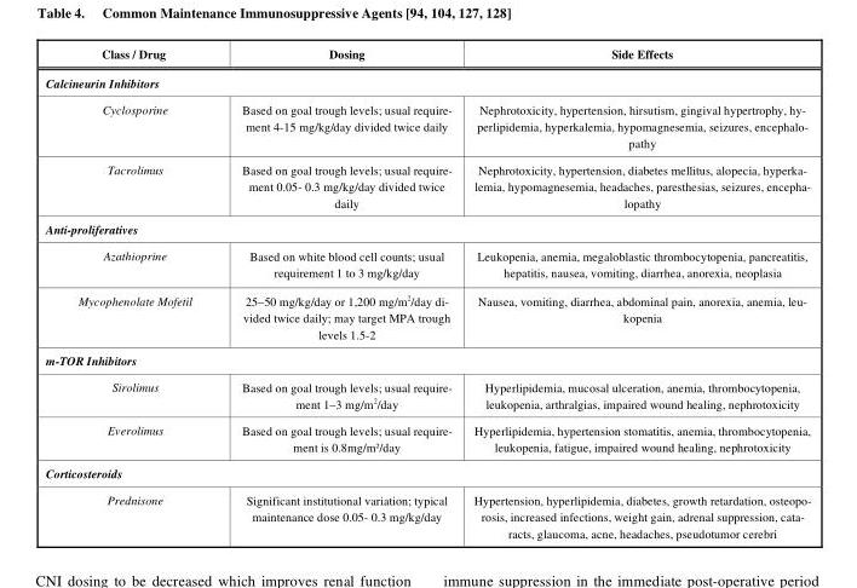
<table><thead><tr><td>Class / Drug</td><td>Dosing</td><td>Side Effects</td></tr></thead><tbody><tr><td colspan="3">Calcineurin Inhibitors</td></tr><tr><td>Cyclosporine</td><td>Based on goal trough levels; usual require- ment 4-15 mg/kg/day divided twice daily</td><td>Nephrotoxicity, hypertension, hirsutism, gingival hypertrophy, hy- perlipidemia, hyperkalemia, hypomagnesemia, seizures, encephalo- pathy</td></tr><tr><td>Tacrolimus</td><td>Based on goal trough levels; usual require- ment 0.05- 0.3 mg/kg/day divided twice daily</td><td>Nephrotoxicity, hypertension, diabetes mellitus, alopecia, hyperka- lemia, hypomagnesemia, headaches, paresthesias, seizures, encepha- lopathy</td></tr><tr><td colspan="3">Anti-proliferatives</td></tr><tr><td>Azathioprine</td><td>Based on white blood cell counts; usual requirement 1 to 3 mg/kg/day</td><td>Leukopenia, anemia, megaloblastic thrombocytopenia, pancreatitis, hepatitis, nausea, vomiting, diarrhea, anorexia, neoplasia</td></tr><tr><td>Mycophenolate Mofetil</td><td>25–50 mg/kg/day or 1,200 mg/m2/day di- vided twice daily; may target MPA trough levels 1.5-2</td><td>Nausea, vomiting, diarrhea, abdominal pain, anorexia, anemia, leu- kopenia</td></tr><tr><td colspan="3">m-TOR Inhibitors</td></tr><tr><td>Sirolimus</td><td>Based on goal trough levels; usual require- ment 1–3 mg/m2/day</td><td>Hyperlipidemia, mucosal ulceration, anemia, thrombocytopenia, leukopenia, arthralgias, impaired wound healing, nephrotoxicity</td></tr><tr><td>Everolimus</td><td>Based on goal trough levels; usual require- ment is 0.8mg/m�/day</td><td>Hyperlipidemia, hypertension stomatitis, anemia, thrombocytopenia, leukopenia, fatigue, impaired wound healing, nephrotoxicity</td></tr><tr><td colspan="3">Corticosteroids</td></tr><tr><td>Prednisone</td><td>Significant institutional variation; typical maintenance dose 0.05- 0.3 mg/kg/day</td><td>Hypertension, hyperlipidemia, diabetes, growth retardation, osteopo- rosis, increased infections, weight gain, adrenal suppression, cata- racts, glaucoma, acne, headaches, pseudotumor cerebri</td></tr></tbody></table>